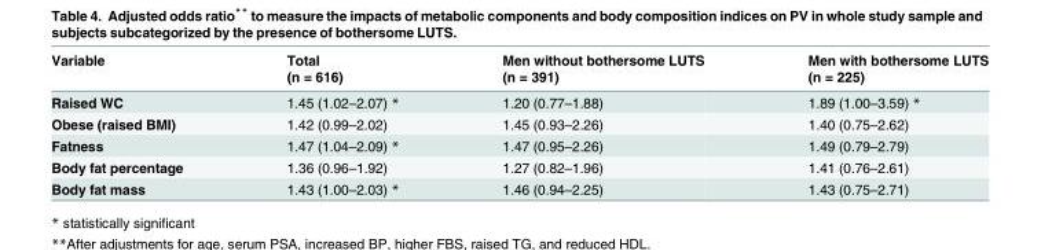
<table><thead><tr><td rowspan="2">Variable</td><td rowspan="2">Total (n = 616)</td><td rowspan="2">Men without bothersome LUTS (n = 391)</td><td rowspan="2">Men with bothersome LUTS (n = 225)</td></tr><tr></tr></thead><tbody><tr><td>Raised WC</td><td>1.45 (1.02–2.07) *</td><td>1.20 (0.77–1.88)</td><td>1.89 (1.00–3.59) *</td></tr><tr><td>Obese (raised BMI)</td><td>1.42 (0.99–2.02)</td><td>1.45 (0.93–2.26)</td><td>1.40 (0.75–2.62)</td></tr><tr><td>Fatness</td><td>1.47 (1.04–2.09) *</td><td>1.47 (0.95–2.26)</td><td>1.49 (0.79–2.79)</td></tr><tr><td>Body fat percentage</td><td>1.36 (0.96–1.92)</td><td>1.27 (0.82–1.96)</td><td>1.41 (0.76–2.61)</td></tr><tr><td>Body fat mass</td><td>1.43 (1.00–2.03) *</td><td>1.46 (0.94–2.25)</td><td>1.43 (0.75–2.71)</td></tr></tbody></table>